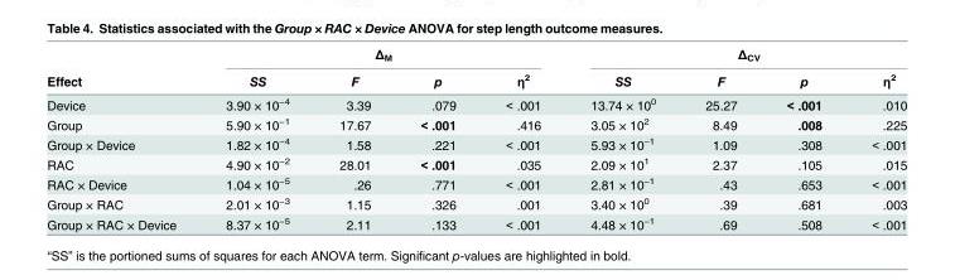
<table><thead><tr><td rowspan="2">Effect</td><td colspan="4">Δ<sub>M</sub></td><td colspan="4">Δ<sub>CV</sub></td></tr><tr><td>SS</td><td>F</td><td>p</td><td>η<sup>2</sup></td><td>SS</td><td>F</td><td>p</td><td>η<sup>2</sup></td></tr></thead><tbody><tr><td>Device</td><td>3.90 × 10<sup>−4</sup></td><td>3.39</td><td>.079</td><td>&lt; .001</td><td>13.74 × 10<sup>0</sup></td><td>25.27</td><td>&lt; .001</td><td>.010</td></tr><tr><td>Group</td><td>5.90 × 10<sup>−1</sup></td><td>17.67</td><td>&lt; .001</td><td>.416</td><td>3.05 × 10<sup>2</sup></td><td>8.49</td><td>.008</td><td>.225</td></tr><tr><td>Group × Device</td><td>1.82 × 10<sup>−4</sup></td><td>1.58</td><td>.221</td><td>&lt; .001</td><td>5.93 × 10<sup>−1</sup></td><td>1.09</td><td>.308</td><td>&lt; .001</td></tr><tr><td>RAC</td><td>4.90 × 10<sup>−2</sup></td><td>28.01</td><td>&lt; .001</td><td>.035</td><td>2.09 × 10<sup>1</sup></td><td>2.37</td><td>.105</td><td>.015</td></tr><tr><td>RAC × Device</td><td>1.04 × 10<sup>−5</sup></td><td>.26</td><td>.771</td><td>&lt; .001</td><td>2.81 × 10<sup>−1</sup></td><td>.43</td><td>.653</td><td>&lt; .001</td></tr><tr><td>Group × RAC</td><td>2.01 × 10<sup>−3</sup></td><td>1.15</td><td>.326</td><td>.001</td><td>3.40 × 10<sup>0</sup></td><td>.39</td><td>.681</td><td>.003</td></tr><tr><td>Group × RAC × Device</td><td>8.37 × 10<sup>−5</sup></td><td>2.11</td><td>.133</td><td>&lt; .001</td><td>4.48 × 10<sup>−1</sup></td><td>.69</td><td>.508</td><td>&lt; .001</td></tr></tbody></table>